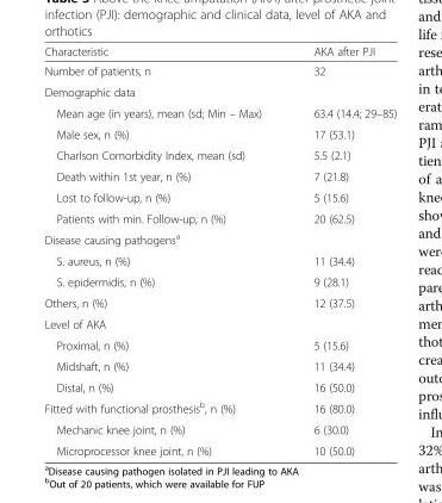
<table><thead><tr><td>Characteristic</td><td>AKA after PJI</td></tr></thead><tbody><tr><td>Number of patients, n</td><td>32</td></tr><tr><td colspan="2">Demographic data</td></tr><tr><td>Mean age (in years), mean (sd; Min – Max)</td><td>63.4 (14.4; 29–85)</td></tr><tr><td>Male sex, n (%)</td><td>17 (53.1)</td></tr><tr><td>Charlson Comorbidity Index, mean (sd)</td><td>5.5 (2.1)</td></tr><tr><td>Death within 1st year, n (%)</td><td>7 (21.8)</td></tr><tr><td>Lost to follow-up, n (%)</td><td>5 (15.6)</td></tr><tr><td>Patients with min. Follow-up, n (%)</td><td>20 (62.5)</td></tr><tr><td colspan="2">Disease causing pathogens<sup>a</sup></td></tr><tr><td>S. aureus, n (%)</td><td>11 (34.4)</td></tr><tr><td>S. epidermidis, n (%)</td><td>9 (28.1)</td></tr><tr><td>Others, n (%)</td><td>12 (37.5)</td></tr><tr><td colspan="2">Level of AKA</td></tr><tr><td>Proximal, n (%)</td><td>5 (15.6)</td></tr><tr><td>Midshaft, n (%)</td><td>11 (34.4)</td></tr><tr><td>Distal, n (%)</td><td>16 (50.0)</td></tr><tr><td>Fitted with functional prosthesis<sup>b</sup>, n (%)</td><td>16 (80.0)</td></tr><tr><td>Mechanic knee joint, n (%)</td><td>6 (30.0)</td></tr><tr><td>Microprocessor knee joint, n (%)</td><td>10 (50.0)</td></tr></tbody></table>